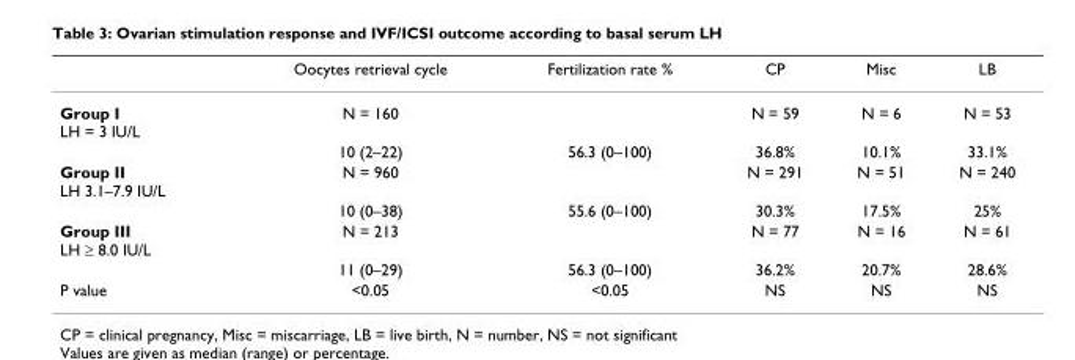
<table><thead><tr><td></td><td>Oocytes retrieval cycle</td><td>Fertilization rate %</td><td>CP</td><td>Misc</td><td>LB</td></tr></thead><tbody><tr><td rowspan="2">Group I LH = 3 IU/L</td><td>N = 160</td><td></td><td>N = 59</td><td>N = 6</td><td>N = 53</td></tr><tr><td>10 (2–22)</td><td>56.3 (0–100)</td><td>36.8%</td><td>10.1%</td><td>33.1%</td></tr><tr><td rowspan="2">Group II LH 3.1–7.9 IU/L</td><td>N = 960</td><td></td><td>N = 291</td><td>N = 51</td><td>N = 240</td></tr><tr><td>10 (0–38)</td><td>55.6 (0–100)</td><td>30.3%</td><td>17.5%</td><td>25%</td></tr><tr><td rowspan="2">Group III LH ≥ 8.0 IU/L</td><td>N = 213</td><td></td><td>N = 77</td><td>N = 16</td><td>N = 61</td></tr><tr><td>11 (0–29)</td><td>56.3 (0–100)</td><td>36.2%</td><td>20.7%</td><td>28.6%</td></tr><tr><td>P value</td><td>&lt;0.05</td><td>&lt;0.05</td><td>NS</td><td>NS</td><td>NS</td></tr></tbody></table>